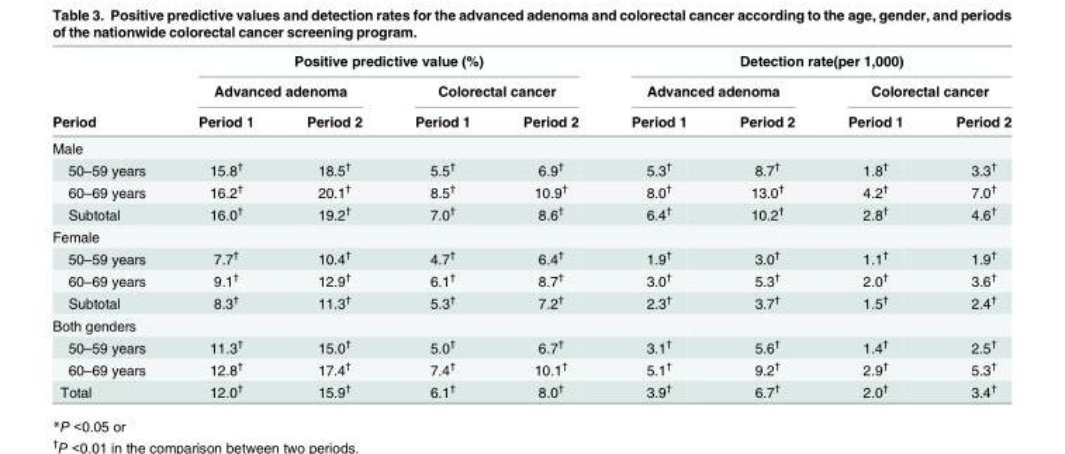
<table><thead><tr><td rowspan="3">Period</td><td colspan="4">Positive predictive value (%)</td><td colspan="4">Detection rate(per 1,000)</td></tr><tr><td colspan="2">Advanced adenoma</td><td colspan="2">Colorectal cancer</td><td colspan="2">Advanced adenoma</td><td colspan="2">Colorectal cancer</td></tr><tr><td>Period 1</td><td>Period 2</td><td>Period 1</td><td>Period 2</td><td>Period 1</td><td>Period 2</td><td>Period 1</td><td>Period 2</td></tr></thead><tbody><tr><td colspan="9">Male</td></tr><tr><td>50–59 years</td><td>15.8<sup>†</sup></td><td>18.5<sup>†</sup></td><td>5.5<sup>†</sup></td><td>6.9<sup>†</sup></td><td>5.3<sup>†</sup></td><td>8.7<sup>†</sup></td><td>1.8<sup>†</sup></td><td>3.3<sup>†</sup></td></tr><tr><td>60–69 years</td><td>16.2<sup>†</sup></td><td>20.1<sup>†</sup></td><td>8.5<sup>†</sup></td><td>10.9<sup>†</sup></td><td>8.0<sup>†</sup></td><td>13.0<sup>†</sup></td><td>4.2<sup>†</sup></td><td>7.0<sup>†</sup></td></tr><tr><td>Subtotal</td><td>16.0<sup>†</sup></td><td>19.2<sup>†</sup></td><td>7.0<sup>†</sup></td><td>8.6<sup>†</sup></td><td>6.4<sup>†</sup></td><td>10.2<sup>†</sup></td><td>2.8<sup>†</sup></td><td>4.6<sup>†</sup></td></tr><tr><td colspan="9">Female</td></tr><tr><td>50–59 years</td><td>7.7<sup>†</sup></td><td>10.4<sup>†</sup></td><td>4.7<sup>†</sup></td><td>6.4<sup>†</sup></td><td>1.9<sup>†</sup></td><td>3.0<sup>†</sup></td><td>1.1<sup>†</sup></td><td>1.9<sup>†</sup></td></tr><tr><td>60–69 years</td><td>9.1<sup>†</sup></td><td>12.9<sup>†</sup></td><td>6.1<sup>†</sup></td><td>8.7<sup>†</sup></td><td>3.0<sup>†</sup></td><td>5.3<sup>†</sup></td><td>2.0<sup>†</sup></td><td>3.6<sup>†</sup></td></tr><tr><td>Subtotal</td><td>8.3<sup>†</sup></td><td>11.3<sup>†</sup></td><td>5.3<sup>†</sup></td><td>7.2<sup>†</sup></td><td>2.3<sup>†</sup></td><td>3.7<sup>†</sup></td><td>1.5<sup>†</sup></td><td>2.4<sup>†</sup></td></tr><tr><td colspan="9">Both genders</td></tr><tr><td>50–59 years</td><td>11.3<sup>†</sup></td><td>15.0<sup>†</sup></td><td>5.0<sup>†</sup></td><td>6.7<sup>†</sup></td><td>3.1<sup>†</sup></td><td>5.6<sup>†</sup></td><td>1.4<sup>†</sup></td><td>2.5<sup>†</sup></td></tr><tr><td>60–69 years</td><td>12.8<sup>†</sup></td><td>17.4<sup>†</sup></td><td>7.4<sup>†</sup></td><td>10.1<sup>†</sup></td><td>5.1<sup>†</sup></td><td>9.2<sup>†</sup></td><td>2.9<sup>†</sup></td><td>5.3<sup>†</sup></td></tr><tr><td>Total</td><td>12.0<sup>†</sup></td><td>15.9<sup>†</sup></td><td>6.1<sup>†</sup></td><td>8.0<sup>†</sup></td><td>3.9<sup>†</sup></td><td>6.7<sup>†</sup></td><td>2.0<sup>†</sup></td><td>3.4<sup>†</sup></td></tr></tbody></table>